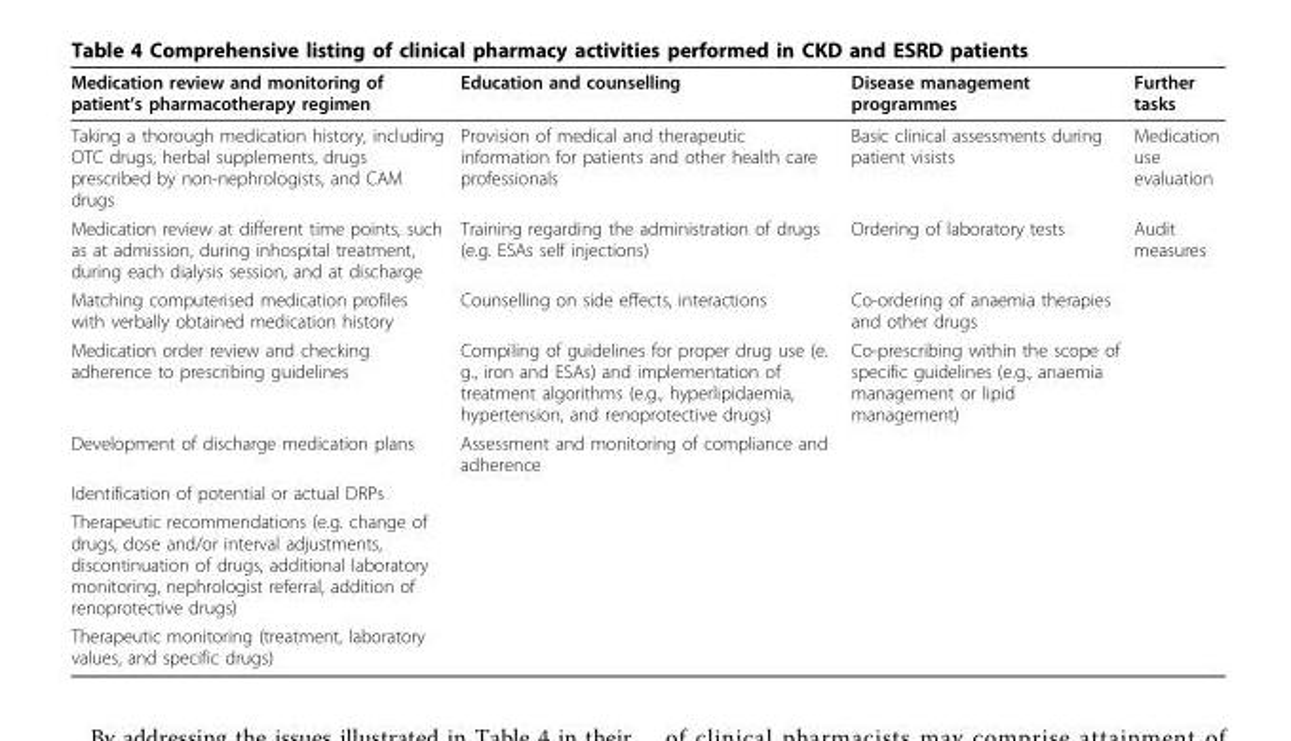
<table><thead><tr><td>Medication review and monitoring of patient’s pharmacotherapy regimen</td><td>Education and counselling</td><td>Disease management programmes</td><td>Further tasks</td></tr></thead><tbody><tr><td>Taking a thorough medication history, including OTC drugs, herbal supplements, drugs prescribed by non-nephrologists, and CAM drugs</td><td>Provision of medical and therapeutic information for patients and other health care professionals</td><td>Basic clinical assessments during patient visists</td><td>Medication use evaluation</td></tr><tr><td>Medication review at different time points, such as at admission, during inhospital treatment, during each dialysis session, and at discharge</td><td>Training regarding the administration of drugs (e.g. ESAs self injections)</td><td>Ordering of laboratory tests</td><td>Audit measures</td></tr><tr><td>Matching computerised medication profiles with verbally obtained medication history</td><td>Counselling on side effects, interactions</td><td>Co-ordering of anaemia therapies and other drugs</td><td></td></tr><tr><td>Medication order review and checking adherence to prescribing guidelines</td><td>Compiling of guidelines for proper drug use (e. g., iron and ESAs) and implementation of treatment algorithms (e.g., hyperlipidaemia, hypertension, and renoprotective drugs)</td><td>Co-prescribing within the scope of specific guidelines (e.g., anaemia management or lipid management)</td><td></td></tr><tr><td>Development of discharge medication plans</td><td>Assessment and monitoring of compliance and adherence</td><td></td><td></td></tr><tr><td colspan="4">Identification of potential or actual DRPs</td></tr><tr><td colspan="4">Therapeutic recommendations (e.g. change of drugs, dose and/or interval adjustments, discontinuation of drugs, additional laboratory monitoring, nephrologist referral, addition of renoprotective drugs)</td></tr><tr><td>Therapeutic monitoring (treatment, laboratory values, and specific drugs)</td><td></td><td></td><td></td></tr></tbody></table>